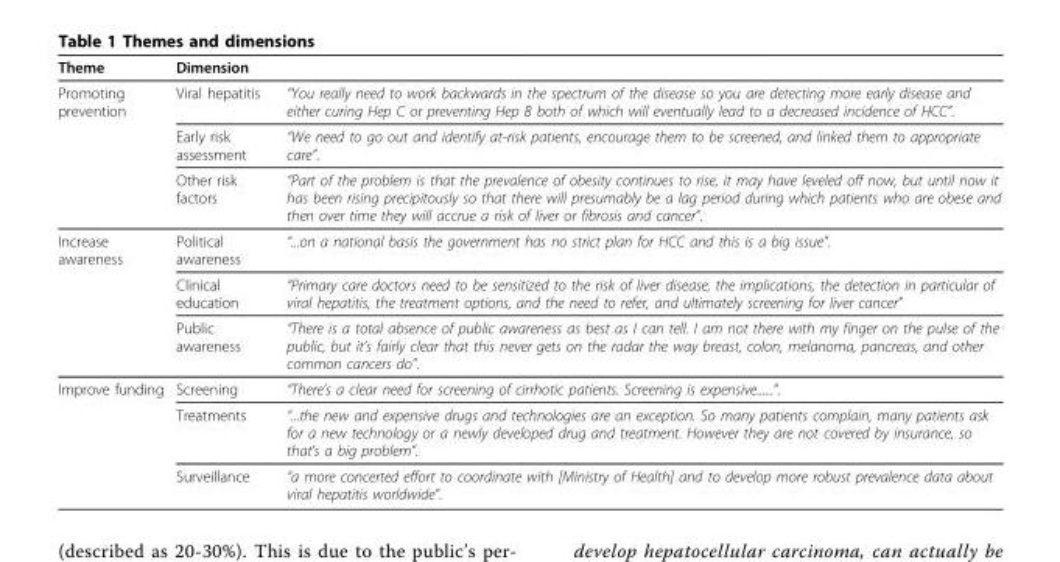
<table><thead><tr><td>Theme</td><td>Dimension</td><td></td></tr></thead><tbody><tr><td rowspan="3">Promoting prevention</td><td>Viral hepatitis</td><td>“You really need to work backwards in the spectrum of the disease so you are detecting more early disease and either curing Hep C or preventing Hep B both of which will eventually lead to a decreased incidence of HCC”.</td></tr><tr><td>Early risk assessment</td><td>“We need to go out and identify at-risk patients, encourage them to be screened, and linked them to appropriate care”.</td></tr><tr><td>Other risk factors</td><td>“Part of the problem is that the prevalence of obesity continues to rise, it may have leveled off now, but until now it has been rising precipitously so that there will presumably be a lag period during which patients who are obese and then over time they will accrue a risk of liver or fibrosis and cancer”.</td></tr><tr><td rowspan="3">Increase awareness</td><td>Political awareness</td><td>“...on a national basis the government has no strict plan for HCC and this is a big issue”.</td></tr><tr><td>Clinical education</td><td>“Primary care doctors need to be sensitized to the risk of liver disease, the implications, the detection in particular of viral hepatitis, the treatment options, and the need to refer, and ultimately screening for liver cancer”</td></tr><tr><td>Public awareness</td><td>“There is a total absence of public awareness as best as I can tell. I am not there with my finger on the pulse of the public, but it’s fairly clear that this never gets on the radar the way breast, colon, melanoma, pancreas, and other common cancers do”.</td></tr><tr><td rowspan="3">Improve funding</td><td>Screening</td><td>“There’s a clear need for screening of cirrhotic patients. Screening is expensive......”.</td></tr><tr><td>Treatments</td><td>“...the new and expensive drugs and technologies are an exception. So many patients complain, many patients ask for a new technology or a newly developed drug and treatment. However they are not covered by insurance, so that’s a big problem”.</td></tr><tr><td>Surveillance</td><td>“a more concerted effort to coordinate with [Ministry of Health] and to develop more robust prevalence data about viral hepatitis worldwide”.</td></tr></tbody></table>